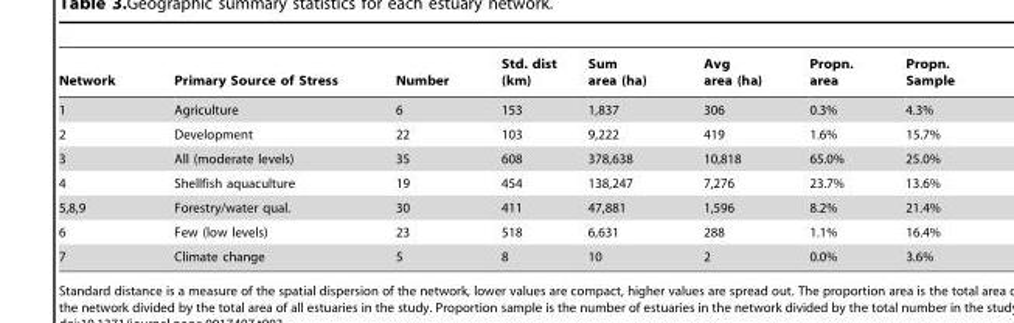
<table><thead><tr><td>Network</td><td>Primary Source of Stress</td><td>Number</td><td>Std. dist (km)</td><td>Sum area (ha)</td><td>Avg area (ha)</td><td>Propn. area</td><td>Propn. Sample</td></tr></thead><tbody><tr><td>1</td><td>Agriculture</td><td>6</td><td>153</td><td>1,837</td><td>306</td><td>0.3%</td><td>4.3%</td></tr><tr><td>2</td><td>Development</td><td>22</td><td>103</td><td>9,222</td><td>419</td><td>1.6%</td><td>15.7%</td></tr><tr><td>3</td><td>All (moderate levels)</td><td>35</td><td>608</td><td>378,638</td><td>10,818</td><td>65.0%</td><td>25.0%</td></tr><tr><td>4</td><td>Shellfish aquaculture</td><td>19</td><td>454</td><td>138,247</td><td>7,276</td><td>23.7%</td><td>13.6%</td></tr><tr><td>5,8,9</td><td>Forestry/water qual.</td><td>30</td><td>411</td><td>47,881</td><td>1,596</td><td>8.2%</td><td>21.4%</td></tr><tr><td>6</td><td>Few (low levels)</td><td>23</td><td>518</td><td>6,631</td><td>288</td><td>1.1%</td><td>16.4%</td></tr><tr><td>7</td><td>Climate change</td><td>5</td><td>8</td><td>10</td><td>2</td><td>0.0%</td><td>3.6%</td></tr></tbody></table>